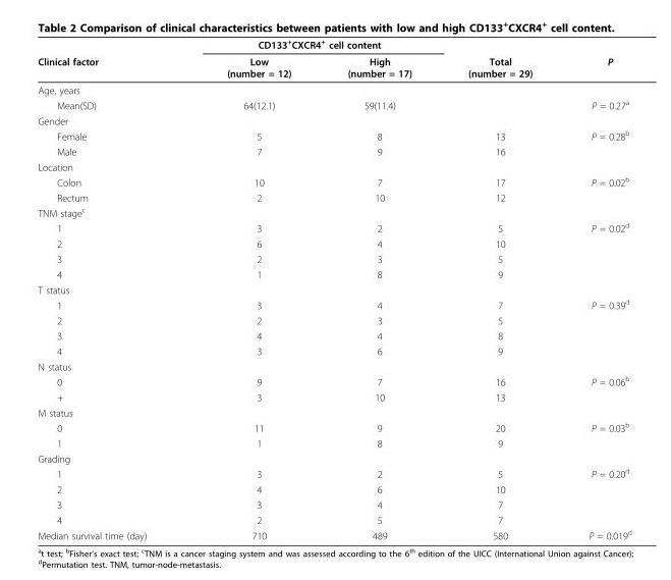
<table><thead><tr><td rowspan="2">Clinical factor</td><td colspan="2">CD133<sup>+</sup>CXCR4<sup>+</sup> cell content</td><td rowspan="2">Total (number = 29)</td><td rowspan="2">P</td></tr><tr><td>Low (number = 12)</td><td>High (number = 17)</td></tr></thead><tbody><tr><td colspan="5">Age, years</td></tr><tr><td>Mean(SD)</td><td>64(12.1)</td><td>59(11.4)</td><td></td><td>P = 0.27<sup>a</sup></td></tr><tr><td colspan="5">Gender</td></tr><tr><td>Female</td><td>5</td><td>8</td><td>13</td><td>P = 0.28<sup>b</sup></td></tr><tr><td>Male</td><td>7</td><td>9</td><td>16</td><td></td></tr><tr><td colspan="5">Location</td></tr><tr><td>Colon</td><td>10</td><td>7</td><td>17</td><td>P = 0.02<sup>b</sup></td></tr><tr><td>Rectum</td><td>2</td><td>10</td><td>12</td><td></td></tr><tr><td colspan="5">TNM stage<sup>c</sup></td></tr><tr><td>1</td><td>3</td><td>2</td><td>5</td><td>P = 0.02<sup>d</sup></td></tr><tr><td>2</td><td>6</td><td>4</td><td>10</td><td></td></tr><tr><td>3</td><td>2</td><td>3</td><td>5</td><td></td></tr><tr><td>4</td><td>1</td><td>8</td><td>9</td><td></td></tr><tr><td colspan="5">T status</td></tr><tr><td>1</td><td>3</td><td>4</td><td>7</td><td>P = 0.39<sup>d</sup></td></tr><tr><td>2</td><td>2</td><td>3</td><td>5</td><td></td></tr><tr><td>3</td><td>4</td><td>4</td><td>8</td><td></td></tr><tr><td>4</td><td>3</td><td>6</td><td>9</td><td></td></tr><tr><td colspan="5">N status</td></tr><tr><td>0</td><td>9</td><td>7</td><td>16</td><td>P = 0.06<sup>b</sup></td></tr><tr><td>+</td><td>3</td><td>10</td><td>13</td><td></td></tr><tr><td colspan="5">M status</td></tr><tr><td>0</td><td>11</td><td>9</td><td>20</td><td>P = 0.03<sup>b</sup></td></tr><tr><td>1</td><td>1</td><td>8</td><td>9</td><td></td></tr><tr><td colspan="5">Grading</td></tr><tr><td>1</td><td>3</td><td>2</td><td>5</td><td>P = 0.20<sup>d</sup></td></tr><tr><td>2</td><td>4</td><td>6</td><td>10</td><td></td></tr><tr><td>3</td><td>3</td><td>4</td><td>7</td><td></td></tr><tr><td>4</td><td>2</td><td>5</td><td>7</td><td></td></tr><tr><td>Median survival time (day)</td><td>710</td><td>489</td><td>580</td><td>P = 0.019<sup>d</sup></td></tr></tbody></table>